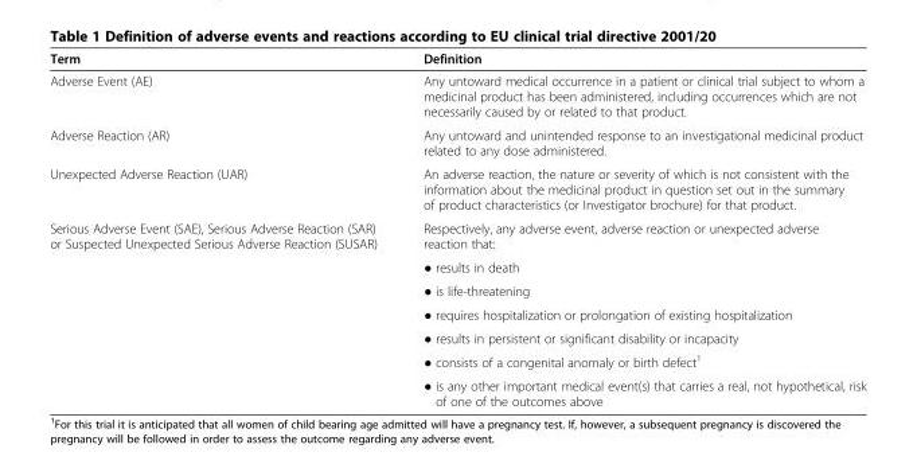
<table><thead><tr><td>Term</td><td>Definition</td></tr></thead><tbody><tr><td>Adverse Event (AE)</td><td>Any untoward medical occurrence in a patient or clinical trial subject to whom a medicinal product has been administered, including occurrences which are not necessarily caused by or related to that product.</td></tr><tr><td>Adverse Reaction (AR)</td><td>Any untoward and unintended response to an investigational medicinal product related to any dose administered.</td></tr><tr><td>Unexpected Adverse Reaction (UAR)</td><td>An adverse reaction, the nature or severity of which is not consistent with the information about the medicinal product in question set out in the summary of product characteristics (or Investigator brochure) for that product.</td></tr><tr><td rowspan="7">Serious Adverse Event (SAE), Serious Adverse Reaction (SAR) or Suspected Unexpected Serious Adverse Reaction (SUSAR)</td><td>Respectively, any adverse event, adverse reaction or unexpected adverse reaction that:</td></tr><tr><td>● results in death</td></tr><tr><td>● is life-threatening</td></tr><tr><td>● requires hospitalization or prolongation of existing hospitalization</td></tr><tr><td>● results in persistent or significant disability or incapacity</td></tr><tr><td>● consists of a congenital anomaly or birth defect<sup>1</sup></td></tr><tr><td>● is any other important medical event(s) that carries a real, not hypothetical, risk of one of the outcomes above</td></tr></tbody></table>